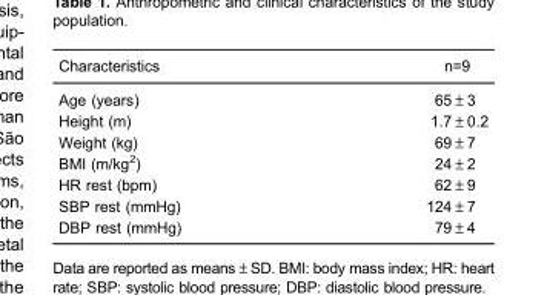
<table><thead><tr><td>Characteristics</td><td>n=9</td></tr></thead><tbody><tr><td>Age (years)</td><td>65±3</td></tr><tr><td>Height (m)</td><td>1.7±0.2</td></tr><tr><td>Weight (kg)</td><td>69±7</td></tr><tr><td>BMI (m/kg<sup>2</sup>)</td><td>24±2</td></tr><tr><td>HR rest (bpm)</td><td>62±9</td></tr><tr><td>SBP rest (mmHg)</td><td>124±7</td></tr><tr><td>DBP rest (mmHg)</td><td>79±4</td></tr></tbody></table>